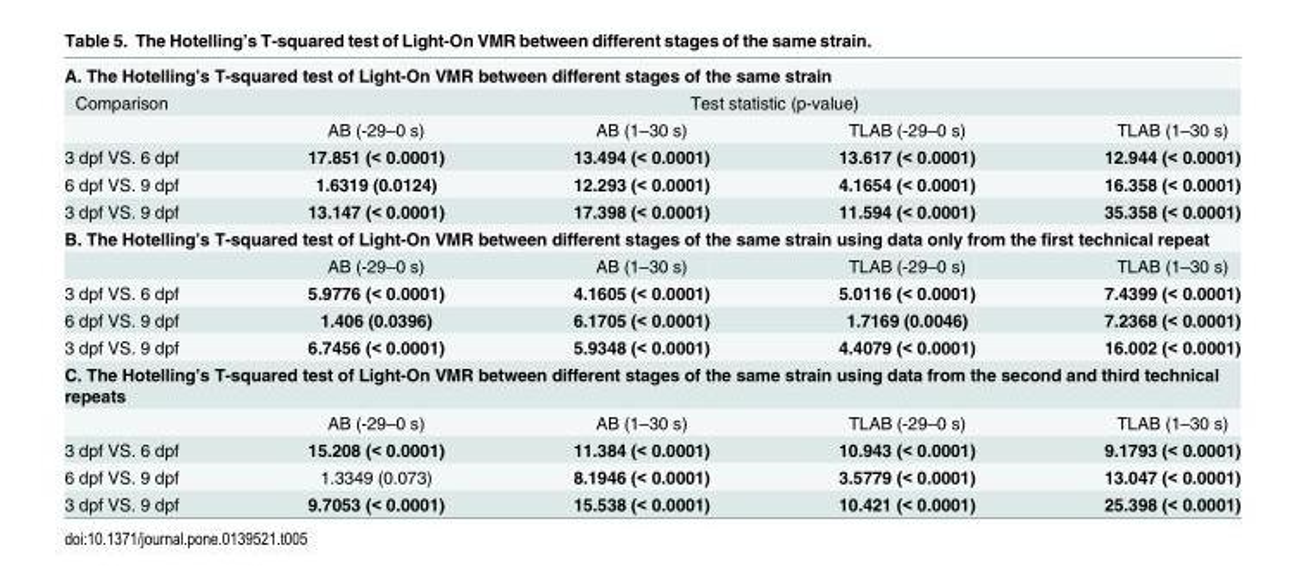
<table><tbody><tr><td colspan="5">A. The Hotelling’s T-squared test of Light-On VMR between different stages of the same strain</td></tr><tr><td rowspan="2">Comparison</td><td colspan="4">Test statistic (p-value)</td></tr><tr><td>AB (-29–0 s)</td><td>AB (1–30 s)</td><td>TLAB (-29–0 s)</td><td>TLAB (1–30 s)</td></tr><tr><td>3 dpf VS. 6 dpf</td><td>17.851 (&lt; 0.0001)</td><td>13.494 (&lt; 0.0001)</td><td>13.617 (&lt; 0.0001)</td><td>12.944 (&lt; 0.0001)</td></tr><tr><td>6 dpf VS. 9 dpf</td><td>1.6319 (0.0124)</td><td>12.293 (&lt; 0.0001)</td><td>4.1654 (&lt; 0.0001)</td><td>16.358 (&lt; 0.0001)</td></tr><tr><td>3 dpf VS. 9 dpf</td><td>13.147 (&lt; 0.0001)</td><td>17.398 (&lt; 0.0001)</td><td>11.594 (&lt; 0.0001)</td><td>35.358 (&lt; 0.0001)</td></tr><tr><td colspan="5">B. The Hotelling’s T-squared test of Light-On VMR between different stages of the same strain using data only from the first technical repeat</td></tr><tr><td></td><td>AB (-29–0 s)</td><td>AB (1–30 s)</td><td>TLAB (-29–0 s)</td><td>TLAB (1–30 s)</td></tr><tr><td>3 dpf VS. 6 dpf</td><td>5.9776 (&lt; 0.0001)</td><td>4.1605 (&lt; 0.0001)</td><td>5.0116 (&lt; 0.0001)</td><td>7.4399 (&lt; 0.0001)</td></tr><tr><td>6 dpf VS. 9 dpf</td><td>1.406 (0.0396)</td><td>6.1705 (&lt; 0.0001)</td><td>1.7169 (0.0046)</td><td>7.2368 (&lt; 0.0001)</td></tr><tr><td>3 dpf VS. 9 dpf</td><td>6.7456 (&lt; 0.0001)</td><td>5.9348 (&lt; 0.0001)</td><td>4.4079 (&lt; 0.0001)</td><td>16.002 (&lt; 0.0001)</td></tr><tr><td colspan="5">C. The Hotelling’s T-squared test of Light-On VMR between different stages of the same strain using data from the second and third technical repeats</td></tr><tr><td></td><td>AB (-29–0 s)</td><td>AB (1–30 s)</td><td>TLAB (-29–0 s)</td><td>TLAB (1–30 s)</td></tr><tr><td>3 dpf VS. 6 dpf</td><td>15.208 (&lt; 0.0001)</td><td>11.384 (&lt; 0.0001)</td><td>10.943 (&lt; 0.0001)</td><td>9.1793 (&lt; 0.0001)</td></tr><tr><td>6 dpf VS. 9 dpf</td><td>1.3349 (0.073)</td><td>8.1946 (&lt; 0.0001)</td><td>3.5779 (&lt; 0.0001)</td><td>13.047 (&lt; 0.0001)</td></tr><tr><td>3 dpf VS. 9 dpf</td><td>9.7053 (&lt; 0.0001)</td><td>15.538 (&lt; 0.0001)</td><td>10.421 (&lt; 0.0001)</td><td>25.398 (&lt; 0.0001)</td></tr></tbody></table>